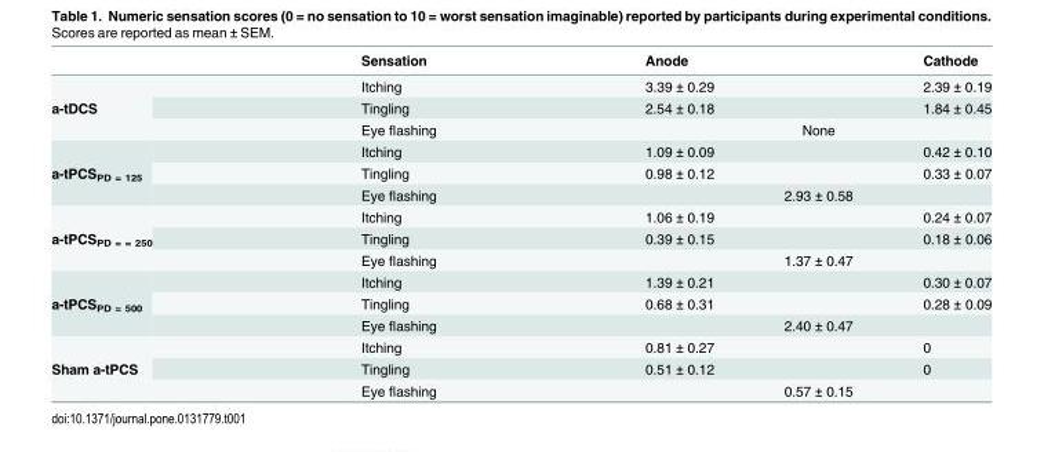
<table><thead><tr><td></td><td>Sensation</td><td>Anode</td><td>Cathode</td></tr></thead><tbody><tr><td rowspan="3">a-tDCS</td><td>Itching</td><td>3.39 ± 0.29</td><td>2.39 ± 0.19</td></tr><tr><td>Tingling</td><td>2.54 ± 0.18</td><td>1.84 ± 0.45</td></tr><tr><td>Eye flashing</td><td colspan="2">None</td></tr><tr><td rowspan="3">a-tPCS<sub>PD = 125</sub></td><td>Itching</td><td>1.09 ± 0.09</td><td>0.42 ± 0.10</td></tr><tr><td>Tingling</td><td>0.98 ± 0.12</td><td>0.33 ± 0.07</td></tr><tr><td>Eye flashing</td><td colspan="2">2.93 ± 0.58</td></tr><tr><td rowspan="3">a-tPCS<sub>PD = = 250</sub></td><td>Itching</td><td>1.06 ± 0.19</td><td>0.24 ± 0.07</td></tr><tr><td>Tingling</td><td>0.39 ± 0.15</td><td>0.18 ± 0.06</td></tr><tr><td>Eye flashing</td><td colspan="2">1.37 ± 0.47</td></tr><tr><td rowspan="3">a-tPCS<sub>PD = 500</sub></td><td>Itching</td><td>1.39 ± 0.21</td><td>0.30 ± 0.07</td></tr><tr><td>Tingling</td><td>0.68 ± 0.31</td><td>0.28 ± 0.09</td></tr><tr><td>Eye flashing</td><td colspan="2">2.40 ± 0.47</td></tr><tr><td rowspan="3">Sham a-tPCS</td><td>Itching</td><td>0.81 ± 0.27</td><td>0</td></tr><tr><td>Tingling</td><td>0.51 ± 0.12</td><td>0</td></tr><tr><td>Eye flashing</td><td colspan="2">0.57 ± 0.15</td></tr></tbody></table>